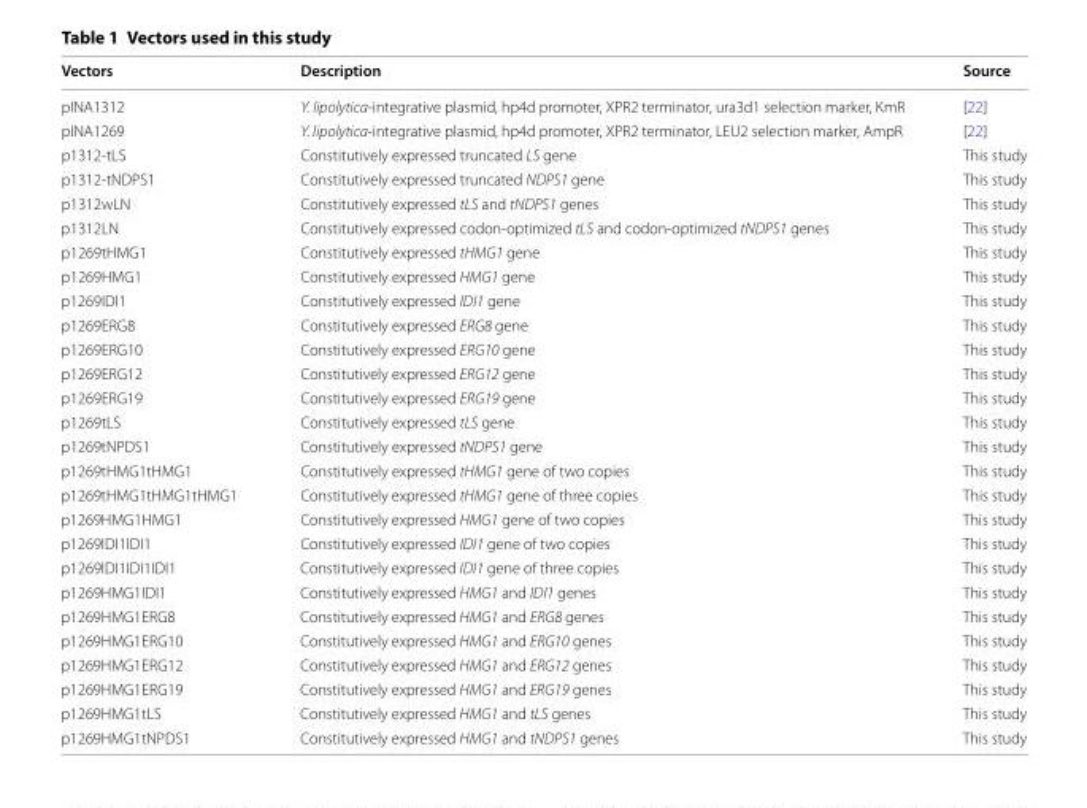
<table><thead><tr><td>Vectors</td><td>Description</td><td>Source</td></tr></thead><tbody><tr><td>pINA1312</td><td>Y. lipolytica‑integrative plasmid, hp4d promoter, XPR2 terminator, ura3d1 selection marker, KmR</td><td>[22]</td></tr><tr><td>pINA1269</td><td>Y. lipolytica‑integrative plasmid, hp4d promoter, XPR2 terminator, LEU2 selection marker, AmpR</td><td>[22]</td></tr><tr><td>p1312‑tLS</td><td>Constitutively expressed truncated LS gene</td><td>This study</td></tr><tr><td>p1312‑tNDPS1</td><td>Constitutively expressed truncated NDPS1 gene</td><td>This study</td></tr><tr><td>p1312wLN</td><td>Constitutively expressed tLS and tNDPS1 genes</td><td>This study</td></tr><tr><td>p1312LN</td><td>Constitutively expressed codon‑optimized tLS and codon‑optimized tNDPS1 genes</td><td>This study</td></tr><tr><td>p1269tHMG1</td><td>Constitutively expressed tHMG1 gene</td><td>This study</td></tr><tr><td>p1269HMG1</td><td>Constitutively expressed HMG1 gene</td><td>This study</td></tr><tr><td>p1269IDI1</td><td>Constitutively expressed IDI1 gene</td><td>This study</td></tr><tr><td>p1269ERG8</td><td>Constitutively expressed ERG8 gene</td><td>This study</td></tr><tr><td>p1269ERG10</td><td>Constitutively expressed ERG10 gene</td><td>This study</td></tr><tr><td>p1269ERG12</td><td>Constitutively expressed ERG12 gene</td><td>This study</td></tr><tr><td>p1269ERG19</td><td>Constitutively expressed ERG19 gene</td><td>This study</td></tr><tr><td>p1269tLS</td><td>Constitutively expressed tLS gene</td><td>This study</td></tr><tr><td>p1269tNPDS1</td><td>Constitutively expressed tNDPS1 gene</td><td>This study</td></tr><tr><td>p1269tHMG1tHMG1</td><td>Constitutively expressed tHMG1 gene of two copies</td><td>This study</td></tr><tr><td>p1269tHMG1tHMG1tHMG1</td><td>Constitutively expressed tHMG1 gene of three copies</td><td>This study</td></tr><tr><td>p1269HMG1HMG1</td><td>Constitutively expressed HMG1 gene of two copies</td><td>This study</td></tr><tr><td>p1269IDI1IDI1</td><td>Constitutively expressed IDI1 gene of two copies</td><td>This study</td></tr><tr><td>p1269IDI1IDI1IDI1</td><td>Constitutively expressed IDI1 gene of three copies</td><td>This study</td></tr><tr><td>p1269HMG1IDI1</td><td>Constitutively expressed HMG1 and IDI1 genes</td><td>This study</td></tr><tr><td>p1269HMG1ERG8</td><td>Constitutively expressed HMG1 and ERG8 genes</td><td>This study</td></tr><tr><td>p1269HMG1ERG10</td><td>Constitutively expressed HMG1 and ERG10 genes</td><td>This study</td></tr><tr><td>p1269HMG1ERG12</td><td>Constitutively expressed HMG1 and ERG12 genes</td><td>This study</td></tr><tr><td>p1269HMG1ERG19</td><td>Constitutively expressed HMG1 and ERG19 genes</td><td>This study</td></tr><tr><td>p1269HMG1tLS</td><td>Constitutively expressed HMG1 and tLS genes</td><td>This study</td></tr><tr><td>p1269HMG1tNPDS1</td><td>Constitutively expressed HMG1 and tNDPS1 genes</td><td>This study</td></tr></tbody></table>